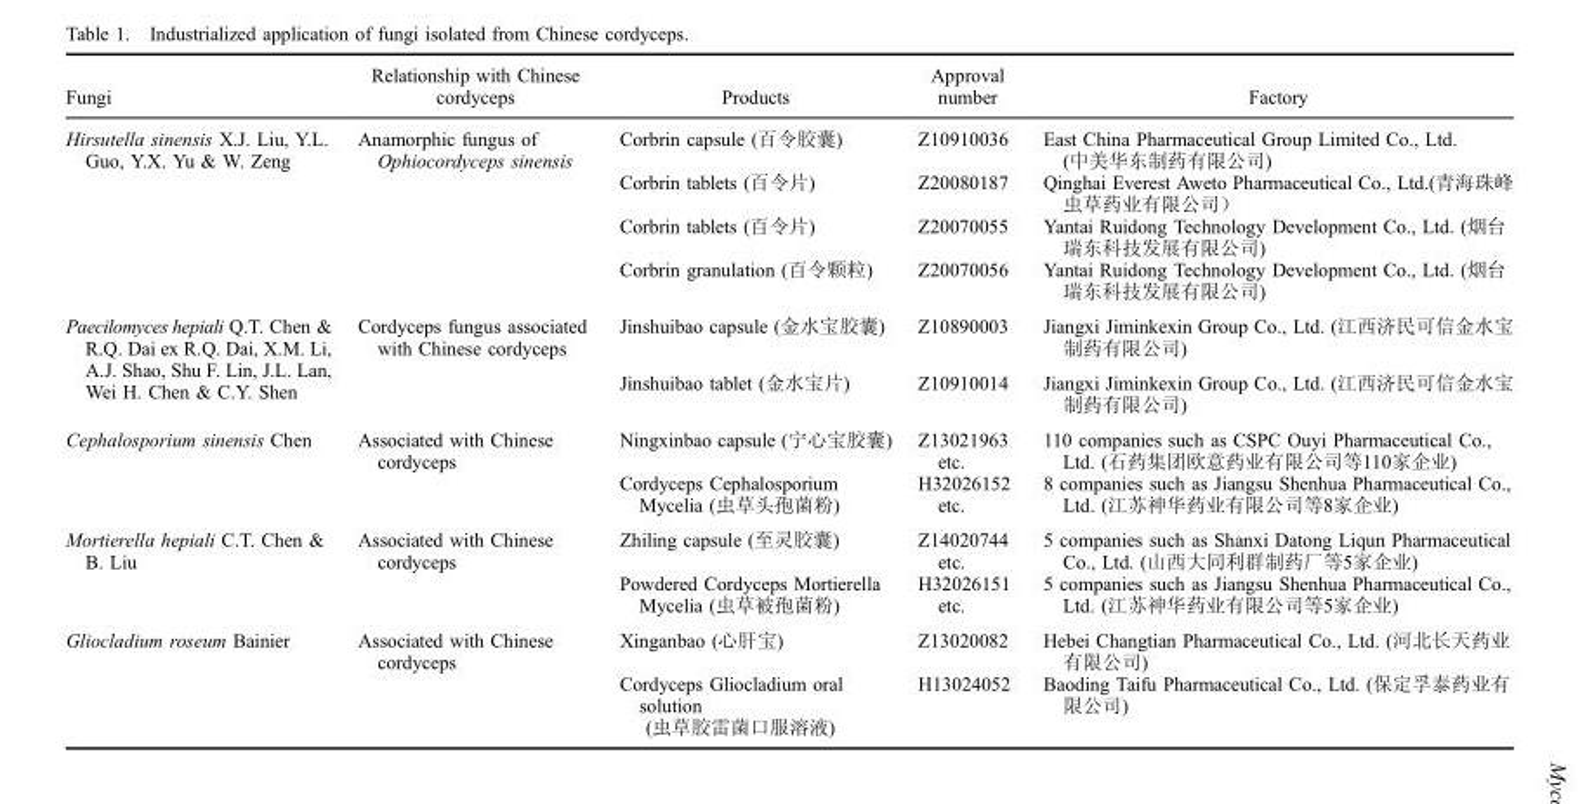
<table><thead><tr><td>Fungi</td><td>Relationship with Chinese cordyceps</td><td>Products</td><td>Approval number</td><td>Factory</td></tr></thead><tbody><tr><td rowspan="4">Hirsutella sinensis X.J. Liu, Y.L. Guo, Y.X. Yu &amp; W. Zeng</td><td rowspan="4">Anamorphic fungus of Ophiocordyceps sinensis</td><td>Corbrin capsule (百令胶囊)</td><td>Z10910036</td><td>East China Pharmaceutical Group Limited Co., Ltd. (中美华东制药有限公司)</td></tr><tr><td>Corbrin tablets (百令片)</td><td>Z20080187</td><td>Qinghai Everest Aweto Pharmaceutical Co., Ltd.(青海珠峰 虫草药业有限公司）</td></tr><tr><td>Corbrin tablets (百令片)</td><td>Z20070055</td><td>Yantai Ruidong Technology Development Co., Ltd. (烟台 瑞东科技发展有限公司)</td></tr><tr><td>Corbrin granulation (百令颗粒)</td><td>Z20070056</td><td>Yantai Ruidong Technology Development Co., Ltd. (烟台 瑞东科技发展有限公司)</td></tr><tr><td rowspan="2">Paecilomyces hepiali Q.T. Chen &amp; R.Q. Dai ex R.Q. Dai, X.M. Li, A.J. Shao, Shu F. Lin, J.L. Lan, Wei H. Chen &amp; C.Y. Shen</td><td rowspan="2">Cordyceps fungus associated with Chinese cordyceps</td><td>Jinshuibao capsule (金水宝胶囊)</td><td>Z10890003</td><td>Jiangxi Jiminkexin Group Co., Ltd. (江西济民可信金水宝 制药有限公司)</td></tr><tr><td>Jinshuibao tablet (金水宝片)</td><td>Z10910014</td><td>Jiangxi Jiminkexin Group Co., Ltd. (江西济民可信金水宝 制药有限公司)</td></tr><tr><td rowspan="2">Cephalosporium sinensis Chen</td><td rowspan="2">Associated with Chinese cordyceps</td><td>Ningxinbao capsule (宁心宝胶囊)</td><td>Z13021963 etc.</td><td>110 companies such as CSPC Ouyi Pharmaceutical Co., Ltd. (石药集团欧意药业有限公司等110家企业)</td></tr><tr><td>Cordyceps Cephalosporium Mycelia (虫草头孢菌粉)</td><td>H32026152 etc.</td><td>8 companies such as Jiangsu Shenhua Pharmaceutical Co., Ltd. (江苏神华药业有限公司等8家企业)</td></tr><tr><td rowspan="2">Mortierella hepiali C.T. Chen &amp; B. Liu</td><td rowspan="2">Associated with Chinese cordyceps</td><td>Zhiling capsule (至灵胶囊)</td><td>Z14020744 etc.</td><td>5 companies such as Shanxi Datong Liqun Pharmaceutical Co., Ltd. (山西大同利群制药厂等5家企业)</td></tr><tr><td>Powdered Cordyceps Mortierella Mycelia (虫草被孢菌粉)</td><td>H32026151 etc.</td><td>5 companies such as Jiangsu Shenhua Pharmaceutical Co., Ltd. (江苏神华药业有限公司等5家企业)</td></tr><tr><td rowspan="2">Gliocladium roseum Bainier</td><td rowspan="2">Associated with Chinese cordyceps</td><td>Xinganbao (心肝宝)</td><td>Z13020082</td><td>Hebei Changtian Pharmaceutical Co., Ltd. (河北长天药业 有限公司)</td></tr><tr><td>Cordyceps Gliocladium oral solution (虫草胶雷菌口服溶液)</td><td>H13024052</td><td>Baoding Taifu Pharmaceutical Co., Ltd. (保定孚泰药业有 限公司)</td></tr></tbody></table>